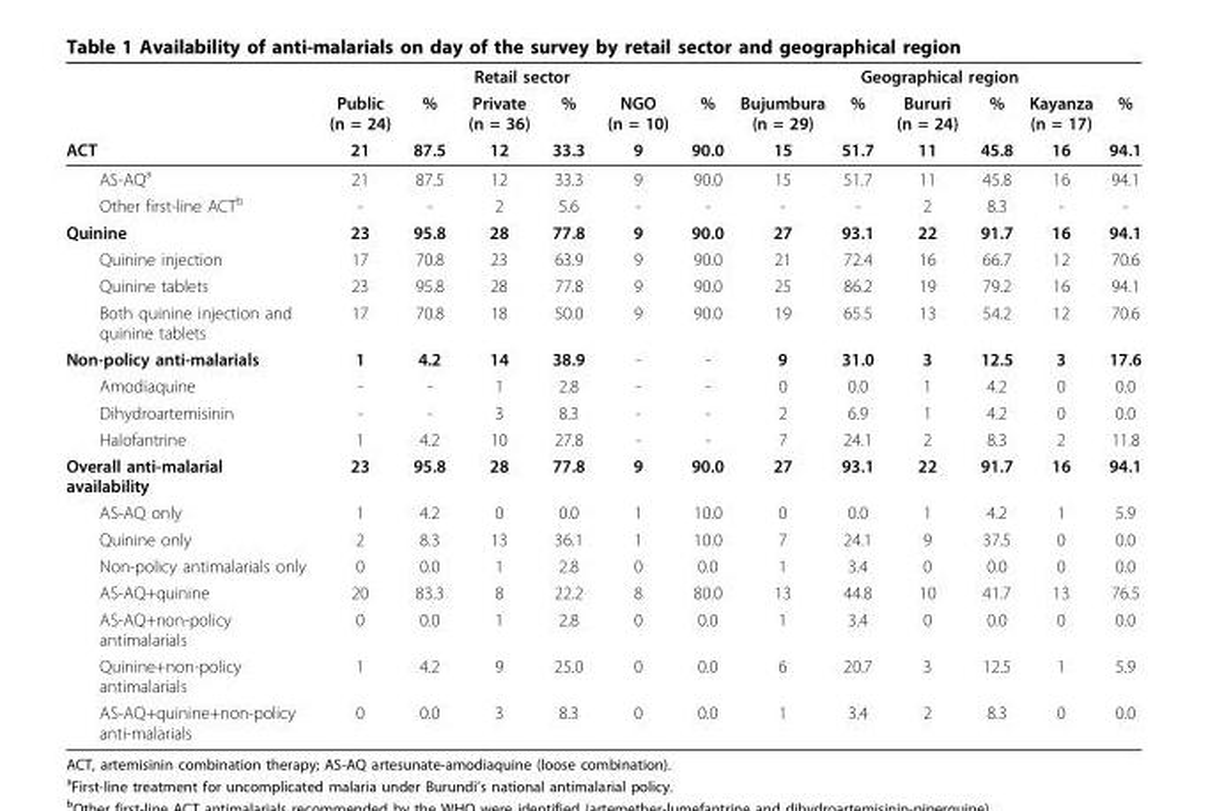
<table><thead><tr><td rowspan="3">ACT</td><td colspan="6">Retail sector</td><td colspan="6">Geographical region</td></tr><tr><td rowspan="2">Public (n = 24) 21</td><td rowspan="2">% 87.5</td><td rowspan="2">Private (n = 36) 12</td><td rowspan="2">% 33.3</td><td rowspan="2">NGO (n = 10) 9</td><td rowspan="2">% 90.0</td><td rowspan="2">Bujumbura (n = 29) 15</td><td rowspan="2">% 51.7</td><td rowspan="2">Bururi (n = 24) 11</td><td rowspan="2">% 45.8</td><td rowspan="2">Kayanza (n = 17) 16</td><td rowspan="2">% 94.1</td></tr><tr></tr></thead><tbody><tr><td>AS-AQ<sup>a</sup></td><td>21</td><td>87.5</td><td>12</td><td>33.3</td><td>9</td><td>90.0</td><td>15</td><td>51.7</td><td>11</td><td>45.8</td><td>16</td><td>94.1</td></tr><tr><td>Other first-line ACT<sup>b</sup></td><td>-</td><td>-</td><td>2</td><td>5.6</td><td>-</td><td>-</td><td>-</td><td>-</td><td>2</td><td>8.3</td><td>-</td><td>-</td></tr><tr><td>Quinine</td><td>23</td><td>95.8</td><td>28</td><td>77.8</td><td>9</td><td>90.0</td><td>27</td><td>93.1</td><td>22</td><td>91.7</td><td>16</td><td>94.1</td></tr><tr><td>Quinine injection</td><td>17</td><td>70.8</td><td>23</td><td>63.9</td><td>9</td><td>90.0</td><td>21</td><td>72.4</td><td>16</td><td>66.7</td><td>12</td><td>70.6</td></tr><tr><td>Quinine tablets</td><td>23</td><td>95.8</td><td>28</td><td>77.8</td><td>9</td><td>90.0</td><td>25</td><td>86.2</td><td>19</td><td>79.2</td><td>16</td><td>94.1</td></tr><tr><td>Both quinine injection and quinine tablets</td><td>17</td><td>70.8</td><td>18</td><td>50.0</td><td>9</td><td>90.0</td><td>19</td><td>65.5</td><td>13</td><td>54.2</td><td>12</td><td>70.6</td></tr><tr><td>Non-policy anti-malarials</td><td>1</td><td>4.2</td><td>14</td><td>38.9</td><td>-</td><td>-</td><td>9</td><td>31.0</td><td>3</td><td>12.5</td><td>3</td><td>17.6</td></tr><tr><td>Amodiaquine</td><td>-</td><td>-</td><td>1</td><td>2.8</td><td>-</td><td>-</td><td>0</td><td>0.0</td><td>1</td><td>4.2</td><td>0</td><td>0.0</td></tr><tr><td>Dihydroartemisinin</td><td>-</td><td>-</td><td>3</td><td>8.3</td><td>-</td><td>-</td><td>2</td><td>6.9</td><td>1</td><td>4.2</td><td>0</td><td>0.0</td></tr><tr><td>Halofantrine</td><td>1</td><td>4.2</td><td>10</td><td>27.8</td><td>-</td><td>-</td><td>7</td><td>24.1</td><td>2</td><td>8.3</td><td>2</td><td>11.8</td></tr><tr><td>Overall anti-malarial availability</td><td>23</td><td>95.8</td><td>28</td><td>77.8</td><td>9</td><td>90.0</td><td>27</td><td>93.1</td><td>22</td><td>91.7</td><td>16</td><td>94.1</td></tr><tr><td>AS-AQ only</td><td>1</td><td>4.2</td><td>0</td><td>0.0</td><td>1</td><td>10.0</td><td>0</td><td>0.0</td><td>1</td><td>4.2</td><td>1</td><td>5.9</td></tr><tr><td>Quinine only</td><td>2</td><td>8.3</td><td>13</td><td>36.1</td><td>1</td><td>10.0</td><td>7</td><td>24.1</td><td>9</td><td>37.5</td><td>0</td><td>0.0</td></tr><tr><td>Non-policy antimalarials only</td><td>0</td><td>0.0</td><td>1</td><td>2.8</td><td>0</td><td>0.0</td><td>1</td><td>3.4</td><td>0</td><td>0.0</td><td>0</td><td>0.0</td></tr><tr><td>AS-AQ+quinine</td><td>20</td><td>83.3</td><td>8</td><td>22.2</td><td>8</td><td>80.0</td><td>13</td><td>44.8</td><td>10</td><td>41.7</td><td>13</td><td>76.5</td></tr><tr><td>AS-AQ+non-policy antimalarials</td><td>0</td><td>0.0</td><td>1</td><td>2.8</td><td>0</td><td>0.0</td><td>1</td><td>3.4</td><td>0</td><td>0.0</td><td>0</td><td>0.0</td></tr><tr><td>Quinine+non-policy antimalarials</td><td>1</td><td>4.2</td><td>9</td><td>25.0</td><td>0</td><td>0.0</td><td>6</td><td>20.7</td><td>3</td><td>12.5</td><td>1</td><td>5.9</td></tr><tr><td>AS-AQ+quinine+non-policy anti-malarials</td><td>0</td><td>0.0</td><td>3</td><td>8.3</td><td>0</td><td>0.0</td><td>1</td><td>3.4</td><td>2</td><td>8.3</td><td>0</td><td>0.0</td></tr></tbody></table>